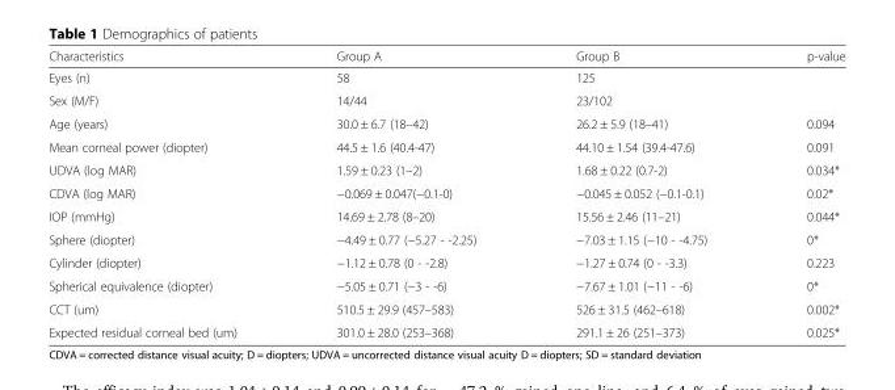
<table><thead><tr><td>Characteristics</td><td>Group A</td><td>Group B</td><td>p-value</td></tr></thead><tbody><tr><td>Eyes (n)</td><td>58</td><td>125</td><td></td></tr><tr><td>Sex (M/F)</td><td>14/44</td><td>23/102</td><td></td></tr><tr><td>Age (years)</td><td>30.0 ± 6.7 (18–42)</td><td>26.2 ± 5.9 (18–41)</td><td>0.094</td></tr><tr><td>Mean corneal power (diopter)</td><td>44.5 ± 1.6 (40.4-47)</td><td>44.10 ± 1.54 (39.4-47.6)</td><td>0.091</td></tr><tr><td>UDVA (log MAR)</td><td>1.59 ± 0.23 (1–2)</td><td>1.68 ± 0.22 (0.7-2)</td><td>0.034*</td></tr><tr><td>CDVA (log MAR)</td><td>−0.069 ± 0.047(−0.1-0)</td><td>−0.045 ± 0.052 (−0.1-0.1)</td><td>0.02*</td></tr><tr><td>IOP (mmHg)</td><td>14.69 ± 2.78 (8–20)</td><td>15.56 ± 2.46 (11–21)</td><td>0.044*</td></tr><tr><td>Sphere (diopter)</td><td>−4.49 ± 0.77 (−5.27 - -2.25)</td><td>−7.03 ± 1.15 (−10 - -4.75)</td><td>0*</td></tr><tr><td>Cylinder (diopter)</td><td>−1.12 ± 0.78 (0 - -2.8)</td><td>−1.27 ± 0.74 (0 - -3.3)</td><td>0.223</td></tr><tr><td>Spherical equivalence (diopter)</td><td>−5.05 ± 0.71 (−3 - -6)</td><td>−7.67 ± 1.01 (−11 - -6)</td><td>0*</td></tr><tr><td>CCT (um)</td><td>510.5 ± 29.9 (457–583)</td><td>526 ± 31.5 (462–618)</td><td>0.002*</td></tr><tr><td>Expected residual corneal bed (um)</td><td>301.0 ± 28.0 (253–368)</td><td>291.1 ± 26 (251–373)</td><td>0.025*</td></tr></tbody></table>